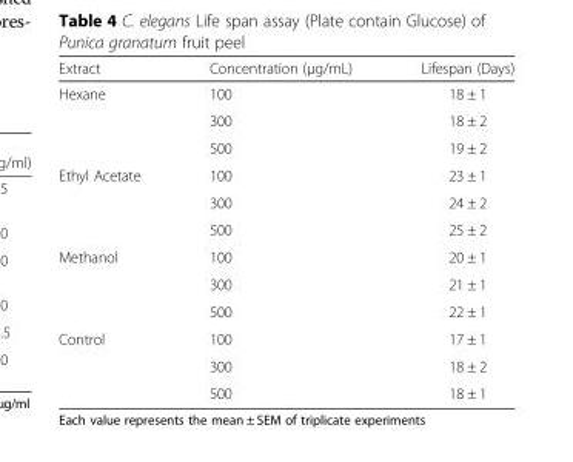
<table><thead><tr><td>Extract</td><td>Concentration (μg/mL)</td><td>Lifespan (Days)</td></tr></thead><tbody><tr><td rowspan="3">Hexane</td><td>100</td><td>18 ± 1</td></tr><tr><td>300</td><td>18 ± 2</td></tr><tr><td>500</td><td>19 ± 2</td></tr><tr><td rowspan="3">Ethyl Acetate</td><td>100</td><td>23 ± 1</td></tr><tr><td>300</td><td>24 ± 2</td></tr><tr><td>500</td><td>25 ± 2</td></tr><tr><td rowspan="3">Methanol</td><td>100</td><td>20 ± 1</td></tr><tr><td>300</td><td>21 ± 1</td></tr><tr><td>500</td><td>22 ± 1</td></tr><tr><td rowspan="3">Control</td><td>100</td><td>17 ± 1</td></tr><tr><td>300</td><td>18 ± 2</td></tr><tr><td>500</td><td>18 ± 1</td></tr></tbody></table>